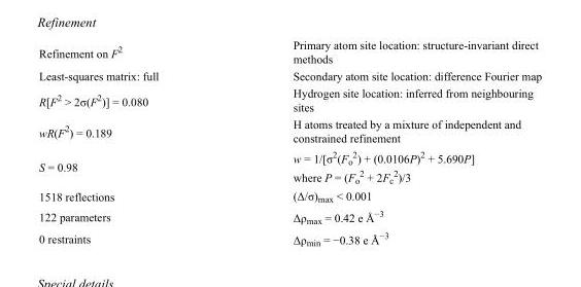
<table><tbody><tr><td>Refinement on F<sup>2</sup></td><td>Primary atom site location: structure-invariant direct methods</td></tr><tr><td>Least-squares matrix: full</td><td>Secondary atom site location: difference Fourier map</td></tr><tr><td>R[F<sup>2</sup> &gt; 2σ(F<sup>2</sup>)] = 0.080</td><td>Hydrogen site location: inferred from neighbouring sites</td></tr><tr><td>wR(F<sup>2</sup>) = 0.189</td><td>H atoms treated by a mixture of independent and constrained refinement</td></tr><tr><td>S = 0.98</td><td>w = 1/[σ<sup>2</sup>(F<sub>o</sub> <sup>2</sup>) + (0.0106P)<sup>2</sup> + 5.690P] where P = (F<sub>o</sub> <sup>2</sup> + 2F<sub>c</sub> <sup>2</sup>)/3</td></tr><tr><td>1518 reflections</td><td>(Δ/σ)<sub>max</sub> &lt; 0.001</td></tr><tr><td>122 parameters</td><td>Δρ<sub>max</sub> = 0.42 e Å<sup>−3</sup></td></tr><tr><td>0 restraints</td><td>Δρ<sub>min</sub> = −0.38 e Å<sup>−3</sup></td></tr></tbody></table>